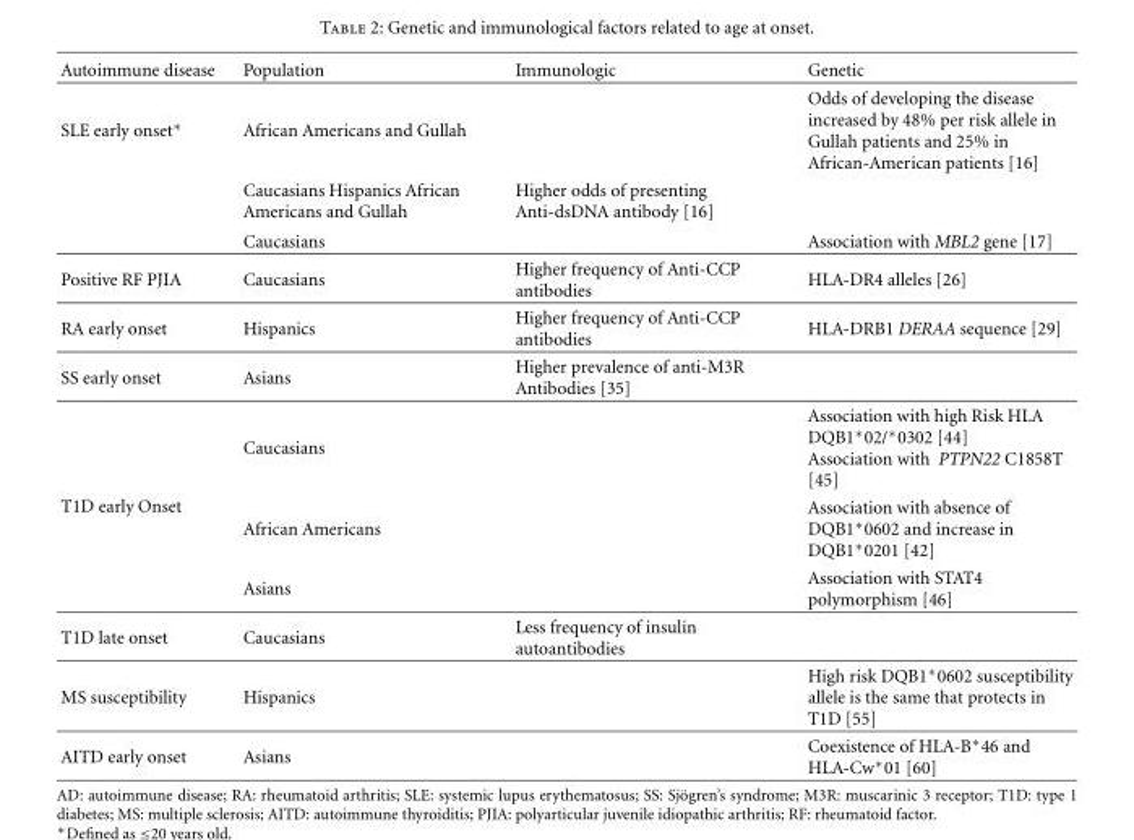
<table><thead><tr><td>Autoimmune disease</td><td>Population</td><td>Immunologic</td><td>Genetic</td></tr></thead><tbody><tr><td rowspan="3">SLE early onset∗</td><td>African Americans and Gullah</td><td></td><td>Odds of developing the disease increased by 48% per risk allele in Gullah patients and 25% in African-American patients [16]</td></tr><tr><td>Caucasians Hispanics African Americans and Gullah</td><td>Higher odds of presenting Anti-dsDNA antibody [16]</td><td></td></tr><tr><td>Caucasians</td><td></td><td>Association with MBL2 gene [17]</td></tr><tr><td>Positive RF PJIA</td><td>Caucasians</td><td>Higher frequency of Anti-CCP antibodies</td><td>HLA-DR4 alleles [26]</td></tr><tr><td>RA early onset</td><td>Hispanics</td><td>Higher frequency of Anti-CCP antibodies</td><td>HLA-DRB1 DERAA sequence [29]</td></tr><tr><td>SS early onset</td><td>Asians</td><td>Higher prevalence of anti-M3R Antibodies [35]</td><td></td></tr><tr><td rowspan="3">T1D early Onset</td><td>Caucasians</td><td></td><td>Association with high Risk HLA DQB1∗02/∗0302 [44] Association with PTPN22 C1858T [45]</td></tr><tr><td>African Americans</td><td></td><td>Association with absence of DQB1∗0602 and increase in DQB1∗0201 [42]</td></tr><tr><td>Asians</td><td></td><td>Association with STAT4 polymorphism [46]</td></tr><tr><td>T1D late onset</td><td>Caucasians</td><td>Less frequency of insulin autoantibodies</td><td></td></tr><tr><td>MS susceptibility</td><td>Hispanics</td><td></td><td>High risk DQB1∗0602 susceptibility allele is the same that protects in T1D [55]</td></tr><tr><td>AITD early onset</td><td>Asians</td><td></td><td>Coexistence of HLA-B∗46 and HLA-Cw∗01 [60]</td></tr></tbody></table>